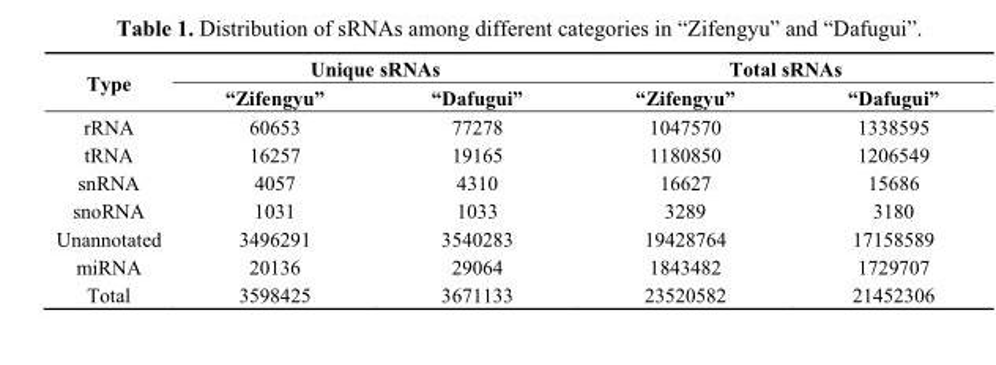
<table><thead><tr><td rowspan="2">Type</td><td colspan="2">Unique sRNAs</td><td colspan="2">Total sRNAs</td></tr><tr><td>“Zifengyu”</td><td>“Dafugui”</td><td>“Zifengyu”</td><td>“Dafugui”</td></tr></thead><tbody><tr><td>rRNA</td><td>60653</td><td>77278</td><td>1047570</td><td>1338595</td></tr><tr><td>tRNA</td><td>16257</td><td>19165</td><td>1180850</td><td>1206549</td></tr><tr><td>snRNA</td><td>4057</td><td>4310</td><td>16627</td><td>15686</td></tr><tr><td>snoRNA</td><td>1031</td><td>1033</td><td>3289</td><td>3180</td></tr><tr><td>Unannotated</td><td>3496291</td><td>3540283</td><td>19428764</td><td>17158589</td></tr><tr><td>miRNA</td><td>20136</td><td>29064</td><td>1843482</td><td>1729707</td></tr><tr><td>Total</td><td>3598425</td><td>3671133</td><td>23520582</td><td>21452306</td></tr></tbody></table>